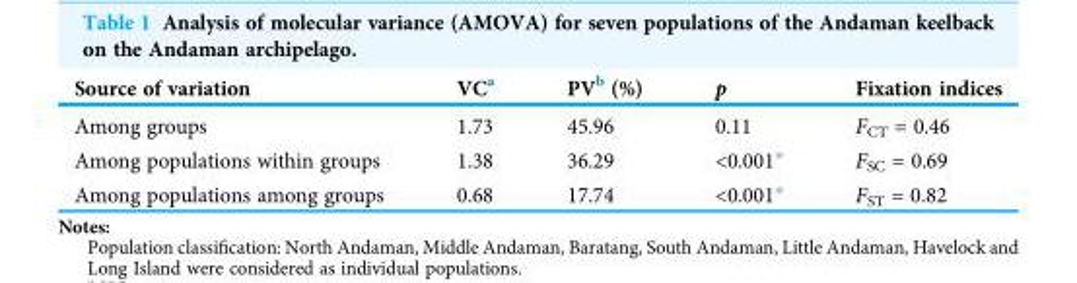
<table><thead><tr><td>Source of variation</td><td>VC<sup>a</sup></td><td>PV<sup>b</sup> (%)</td><td>p</td><td>Fixation indices</td></tr></thead><tbody><tr><td>Among groups</td><td>1.73</td><td>45.96</td><td>0.11</td><td>F<sub>CT</sub> = 0.46</td></tr><tr><td>Among populations within groups</td><td>1.38</td><td>36.29</td><td>&lt;0.001*</td><td>F<sub>SC</sub> = 0.69</td></tr><tr><td>Among populations among groups</td><td>0.68</td><td>17.74</td><td>&lt;0.001*</td><td>F<sub>ST</sub> = 0.82</td></tr></tbody></table>